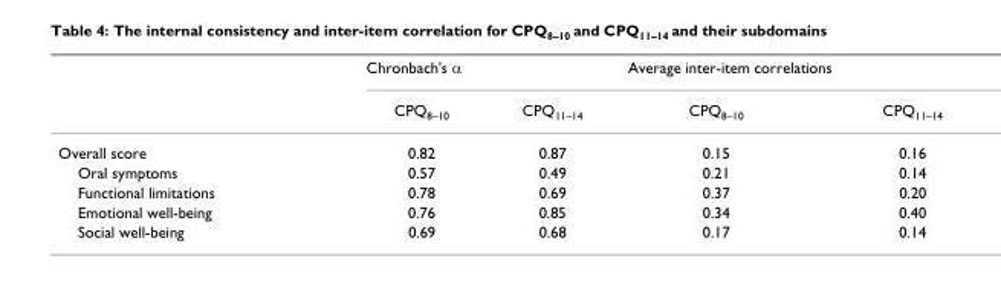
<table><thead><tr><td rowspan="2"></td><td colspan="2">Chronbach&#x27;s α</td><td colspan="2">Average inter-item correlations</td></tr><tr><td>CPQ<sub>8–10</sub></td><td>CPQ<sub>11–14</sub></td><td>CPQ<sub>8–10</sub></td><td>CPQ<sub>11–14</sub></td></tr></thead><tbody><tr><td>Overall score</td><td>0.82</td><td>0.87</td><td>0.15</td><td>0.16</td></tr><tr><td>Oral symptoms</td><td>0.57</td><td>0.49</td><td>0.21</td><td>0.14</td></tr><tr><td>Functional limitations</td><td>0.78</td><td>0.69</td><td>0.37</td><td>0.20</td></tr><tr><td>Emotional well-being</td><td>0.76</td><td>0.85</td><td>0.34</td><td>0.40</td></tr><tr><td>Social well-being</td><td>0.69</td><td>0.68</td><td>0.17</td><td>0.14</td></tr></tbody></table>